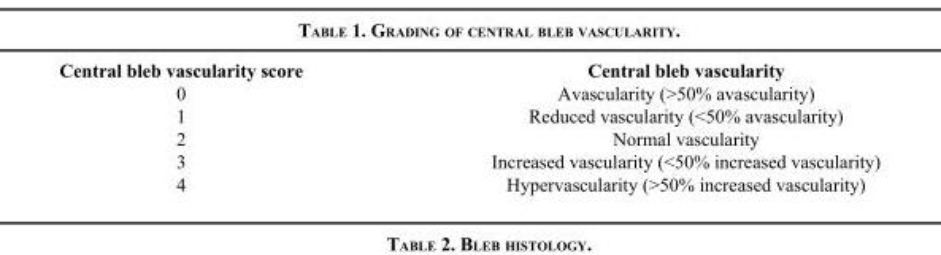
<table><thead><tr><td>Central bleb vascularity score</td><td>Central bleb vascularity</td></tr></thead><tbody><tr><td>0</td><td>Avascularity (&gt;50% avascularity)</td></tr><tr><td>1</td><td>Reduced vascularity (&lt;50% avascularity)</td></tr><tr><td>2</td><td>Normal vascularity</td></tr><tr><td>3</td><td>Increased vascularity (&lt;50% increased vascularity)</td></tr><tr><td>4</td><td>Hypervascularity (&gt;50% increased vascularity)</td></tr></tbody></table>